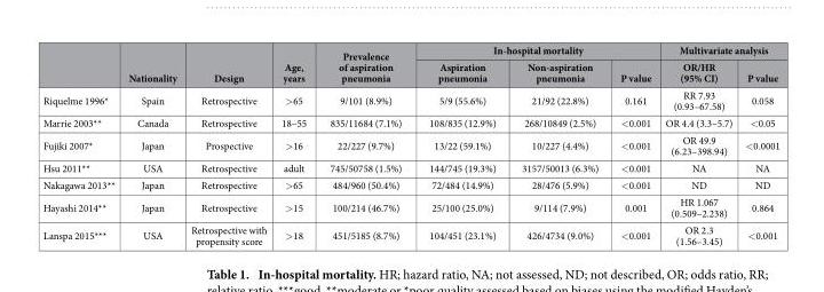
<table><thead><tr><td rowspan="2"></td><td rowspan="2">Nationality</td><td rowspan="2">Design</td><td rowspan="2">Age, years</td><td rowspan="2">Prevalence of aspiration pneumonia</td><td colspan="3">In-hospital mortality</td><td colspan="2">Multivariate analysis</td></tr><tr><td>Aspiration pneumonia</td><td>Non-aspiration pneumonia</td><td>P value</td><td>OR/HR (95% CI)</td><td>P value</td></tr></thead><tbody><tr><td>Riquelme 1996*</td><td>Spain</td><td>Retrospective</td><td>&gt; 65</td><td>9/101 (8.9%)</td><td>5/9 (55.6%)</td><td>21/92 (22.8%)</td><td>0.161</td><td>RR 7.93 (0.93–67.58)</td><td>0.058</td></tr><tr><td>Marrie 2003**</td><td>Canada</td><td>Retrospective</td><td>18–55</td><td>835/11684 (7.1%)</td><td>108/835 (12.9%)</td><td>268/10849 (2.5%)</td><td>&lt; 0.001</td><td>OR 4.4 (3.3–5.7)</td><td>&lt; 0.05</td></tr><tr><td>Fujiki 2007*</td><td>Japan</td><td>Prospective</td><td>&gt; 16</td><td>22/227 (9.7%)</td><td>13/22 (59.1%)</td><td>10/227 (4.4%)</td><td>&lt; 0.001</td><td>OR 49.9 (6.23–398.94)</td><td>&lt; 0.0001</td></tr><tr><td>Hsu 2011**</td><td>USA</td><td>Retrospective</td><td>adult</td><td>745/50758 (1.5%)</td><td>144/745 (19.3%)</td><td>3157/50013 (6.3%)</td><td>&lt; 0.001</td><td>NA</td><td>NA</td></tr><tr><td>Nakagawa 2013**</td><td>Japan</td><td>Retrospective</td><td>&gt; 65</td><td>484/960 (50.4%)</td><td>72/484 (14.9%)</td><td>28/476 (5.9%)</td><td>&lt; 0.001</td><td>ND</td><td>ND</td></tr><tr><td>Hayashi 2014**</td><td>Japan</td><td>Retrospective</td><td>&gt; 15</td><td>100/214 (46.7%)</td><td>25/100 (25.0%)</td><td>9/114 (7.9%)</td><td>0.001</td><td>HR 1.067 (0.509–2.238)</td><td>0.864</td></tr><tr><td>Lanspa 2015***</td><td>USA</td><td>Retrospective with propensity score</td><td>&gt; 18</td><td>451/5185 (8.7%)</td><td>104/451 (23.1%)</td><td>426/4734 (9.0%)</td><td>&lt; 0.001</td><td>OR 2.3 (1.56–3.45)</td><td>&lt; 0.001</td></tr></tbody></table>